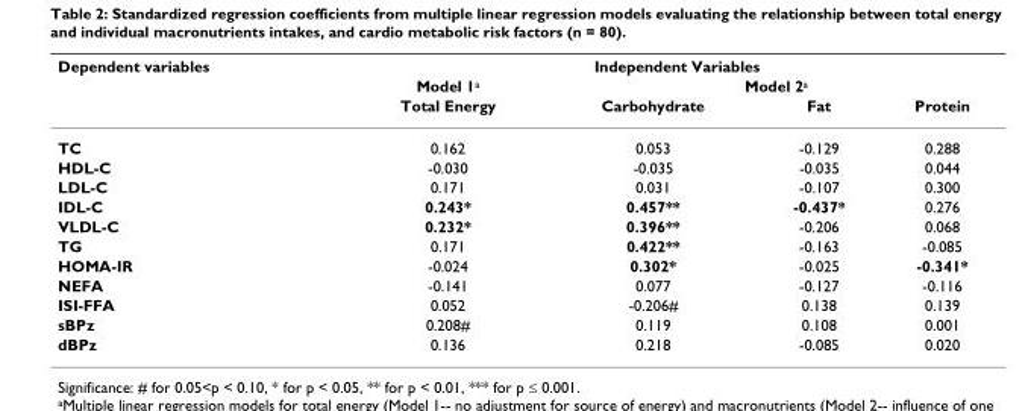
<table><thead><tr><td rowspan="3">Dependent variables</td><td colspan="4">Independent Variables</td></tr><tr><td rowspan="2">Model 1<sup>a</sup> Total Energy</td><td colspan="3">Model 2<sup>a</sup></td></tr><tr><td>Carbohydrate</td><td>Fat</td><td>Protein</td></tr></thead><tbody><tr><td>TC</td><td>0.162</td><td>0.053</td><td>-0.129</td><td>0.288</td></tr><tr><td>HDL-C</td><td>-0.030</td><td>-0.035</td><td>-0.035</td><td>0.044</td></tr><tr><td>LDL-C</td><td>0.171</td><td>0.031</td><td>-0.107</td><td>0.300</td></tr><tr><td>IDL-C</td><td>0.243*</td><td>0.457**</td><td>-0.437*</td><td>0.276</td></tr><tr><td>VLDL-C</td><td>0.232*</td><td>0.396**</td><td>-0.206</td><td>0.068</td></tr><tr><td>TG</td><td>0.171</td><td>0.422**</td><td>-0.163</td><td>-0.085</td></tr><tr><td>HOMA-IR</td><td>-0.024</td><td>0.302*</td><td>-0.025</td><td>-0.341*</td></tr><tr><td>NEFA</td><td>-0.141</td><td>0.077</td><td>-0.127</td><td>-0.116</td></tr><tr><td>ISI-FFA</td><td>0.052</td><td>-0.206#</td><td>0.138</td><td>0.139</td></tr><tr><td>sBPz</td><td>0.208#</td><td>0.119</td><td>0.108</td><td>0.001</td></tr><tr><td>dBPz</td><td>0.136</td><td>0.218</td><td>-0.085</td><td>0.020</td></tr></tbody></table>